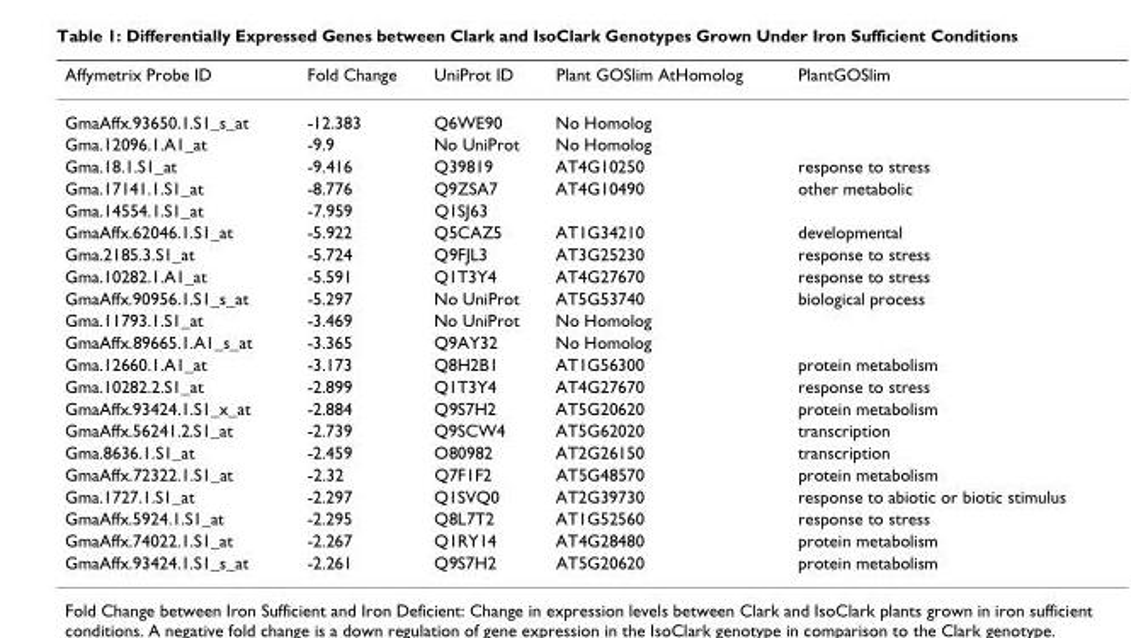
<table><thead><tr><td>Affymetrix Probe ID</td><td>Fold Change</td><td>UniProt ID</td><td>Plant GOSlim AtHomolog</td><td>PlantGOSlim</td></tr></thead><tbody><tr><td>GmaAffx.93650.1.S1_s_at</td><td>-12.383</td><td>Q6WE90</td><td>No Homolog</td><td></td></tr><tr><td>Gma.12096.1.A1_at</td><td>-9.9</td><td>No UniProt</td><td>No Homolog</td><td></td></tr><tr><td>Gma.18.1.S1_at</td><td>-9.416</td><td>Q39819</td><td>AT4G10250</td><td>response to stress</td></tr><tr><td>Gma.17141.1.S1_at</td><td>-8.776</td><td>Q9ZSA7</td><td>AT4G10490</td><td>other metabolic</td></tr><tr><td>Gma.14554.1.S1_at</td><td>-7.959</td><td>Q1SJ63</td><td></td><td></td></tr><tr><td>GmaAffx.62046.1.S1_at</td><td>-5.922</td><td>Q5CAZ5</td><td>AT1G34210</td><td>developmental</td></tr><tr><td>Gma.2185.3.S1_at</td><td>-5.724</td><td>Q9FJL3</td><td>AT3G25230</td><td>response to stress</td></tr><tr><td>Gma.10282.1.A1_at</td><td>-5.591</td><td>Q1T3Y4</td><td>AT4G27670</td><td>response to stress</td></tr><tr><td>GmaAffx.90956.1.S1_s_at</td><td>-5.297</td><td>No UniProt</td><td>AT5G53740</td><td>biological process</td></tr><tr><td>Gma.11793.1.S1_at</td><td>-3.469</td><td>No UniProt</td><td>No Homolog</td><td></td></tr><tr><td>GmaAffx.89665.1.A1_s_at</td><td>-3.365</td><td>Q9AY32</td><td>No Homolog</td><td></td></tr><tr><td>Gma.12660.1.A1_at</td><td>-3.173</td><td>Q8H2B1</td><td>AT1G56300</td><td>protein metabolism</td></tr><tr><td>Gma.10282.2.S1_at</td><td>-2.899</td><td>Q1T3Y4</td><td>AT4G27670</td><td>response to stress</td></tr><tr><td>GmaAffx.93424.1.S1_x_at</td><td>-2.884</td><td>Q9S7H2</td><td>AT5G20620</td><td>protein metabolism</td></tr><tr><td>GmaAffx.56241.2.S1_at</td><td>-2.739</td><td>Q9SCW4</td><td>AT5G62020</td><td>transcription</td></tr><tr><td>Gma.8636.1.S1_at</td><td>-2.459</td><td>O80982</td><td>AT2G26150</td><td>transcription</td></tr><tr><td>GmaAffx.72322.1.S1_at</td><td>-2.32</td><td>Q7F1F2</td><td>AT5G48570</td><td>protein metabolism</td></tr><tr><td>Gma.1727.1.S1_at</td><td>-2.297</td><td>Q1SVQ0</td><td>AT2G39730</td><td>response to abiotic or biotic stimulus</td></tr><tr><td>GmaAffx.5924.1.S1_at</td><td>-2.295</td><td>Q8L7T2</td><td>AT1G52560</td><td>response to stress</td></tr><tr><td>GmaAffx.74022.1.S1_at</td><td>-2.267</td><td>Q1RY14</td><td>AT4G28480</td><td>protein metabolism</td></tr><tr><td>GmaAffx.93424.1.S1_s_at</td><td>-2.261</td><td>Q9S7H2</td><td>AT5G20620</td><td>protein metabolism</td></tr></tbody></table>